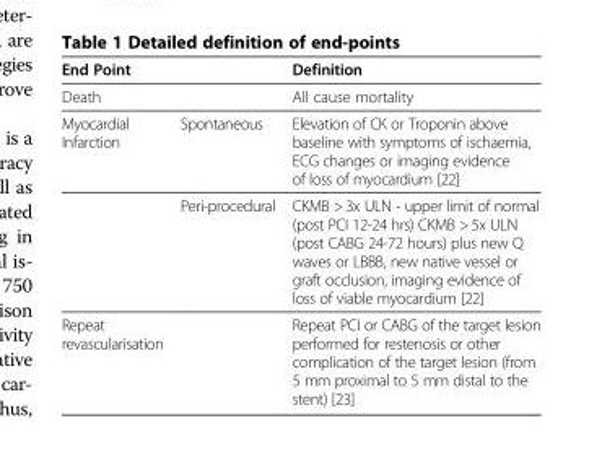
<table><thead><tr><td>End Point</td><td></td><td>Definition</td></tr></thead><tbody><tr><td>Death</td><td></td><td>All cause mortality</td></tr><tr><td rowspan="2">Myocardial Infarction</td><td>Spontaneous</td><td>Elevation of CK or Troponin above baseline with symptoms of ischaemia, ECG changes or imaging evidence of loss of myocardium [22]</td></tr><tr><td>Peri-procedural</td><td>CKMB &gt;3x ULN - upper limit of normal (post PCI 12-24 hrs) CKMB &gt;5x ULN (post CABG 24-72 hours) plus new Q waves or LBBB, new native vessel or graft occlusion, imaging evidence of loss of viable myocardium [22]</td></tr><tr><td>Repeat revascularisation</td><td></td><td>Repeat PCI or CABG of the target lesion performed for restenosis or other complication of the target lesion (from 5 mm proximal to 5 mm distal to the stent) [23]</td></tr></tbody></table>